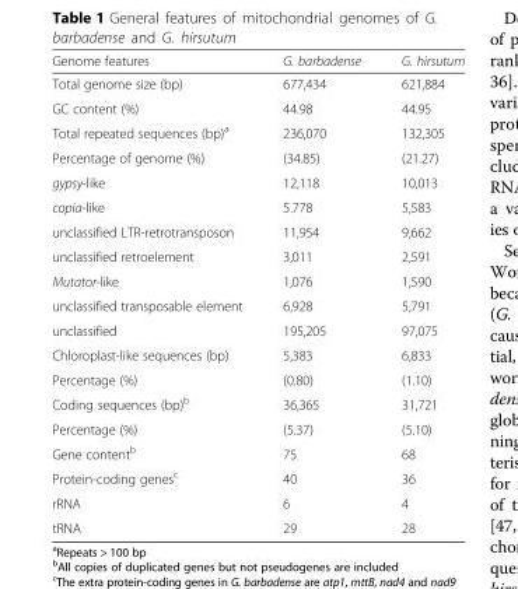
<table><thead><tr><td>Genome features</td><td>G. barbadense</td><td>G. hirsutum</td></tr></thead><tbody><tr><td>Total genome size (bp)</td><td>677,434</td><td>621,884</td></tr><tr><td>GC content (%)</td><td>44.98</td><td>44.95</td></tr><tr><td>Total repeated sequences (bp)<sup>a</sup></td><td>236,070</td><td>132,305</td></tr><tr><td>Percentage of genome (%)</td><td>(34.85)</td><td>(21.27)</td></tr><tr><td>gypsy-like</td><td>12,118</td><td>10,013</td></tr><tr><td>copia-like</td><td>5.778</td><td>5,583</td></tr><tr><td>unclassified LTR-retrotransposon</td><td>11,954</td><td>9,662</td></tr><tr><td>unclassified retroelement</td><td>3,011</td><td>2,591</td></tr><tr><td>Mutator-like</td><td>1,076</td><td>1,590</td></tr><tr><td>unclassified transposable element</td><td>6,928</td><td>5,791</td></tr><tr><td>unclassified</td><td>195,205</td><td>97,075</td></tr><tr><td>Chloroplast-like sequences (bp)</td><td>5,383</td><td>6,833</td></tr><tr><td>Percentage (%)</td><td>(0.80)</td><td>(1.10)</td></tr><tr><td>Coding sequences (bp)<sup>b</sup></td><td>36,365</td><td>31,721</td></tr><tr><td>Percentage (%)</td><td>(5.37)</td><td>(5.10)</td></tr><tr><td>Gene content<sup>b</sup></td><td>75</td><td>68</td></tr><tr><td>Protein-coding genes<sup>c</sup></td><td>40</td><td>36</td></tr><tr><td>rRNA</td><td>6</td><td>4</td></tr><tr><td>tRNA</td><td>29</td><td>28</td></tr></tbody></table>